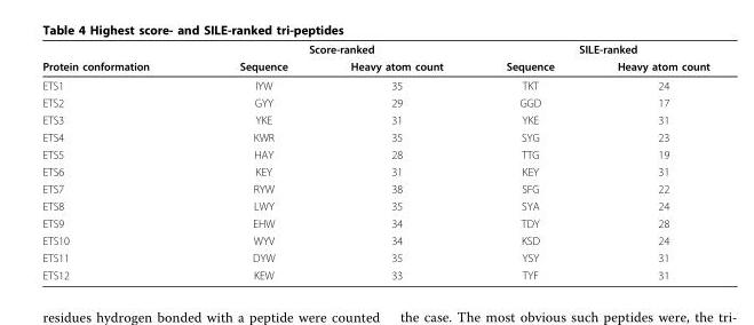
<table><thead><tr><td rowspan="2">Protein conformation</td><td colspan="2">Score-ranked</td><td colspan="2">SILE-ranked</td></tr><tr><td>Sequence</td><td>Heavy atom count</td><td>Sequence</td><td>Heavy atom count</td></tr></thead><tbody><tr><td>ETS1</td><td>IYW</td><td>35</td><td>TKT</td><td>24</td></tr><tr><td>ETS2</td><td>GYY</td><td>29</td><td>GGD</td><td>17</td></tr><tr><td>ETS3</td><td>YKE</td><td>31</td><td>YKE</td><td>31</td></tr><tr><td>ETS4</td><td>KWR</td><td>35</td><td>SYG</td><td>23</td></tr><tr><td>ETS5</td><td>HAY</td><td>28</td><td>TTG</td><td>19</td></tr><tr><td>ETS6</td><td>KEY</td><td>31</td><td>KEY</td><td>31</td></tr><tr><td>ETS7</td><td>RYW</td><td>38</td><td>SFG</td><td>22</td></tr><tr><td>ETS8</td><td>LWY</td><td>35</td><td>SYA</td><td>24</td></tr><tr><td>ETS9</td><td>EHW</td><td>34</td><td>TDY</td><td>28</td></tr><tr><td>ETS10</td><td>WYV</td><td>34</td><td>KSD</td><td>24</td></tr><tr><td>ETS11</td><td>DYW</td><td>35</td><td>YSY</td><td>31</td></tr><tr><td>ETS12</td><td>KEW</td><td>33</td><td>TYF</td><td>31</td></tr></tbody></table>